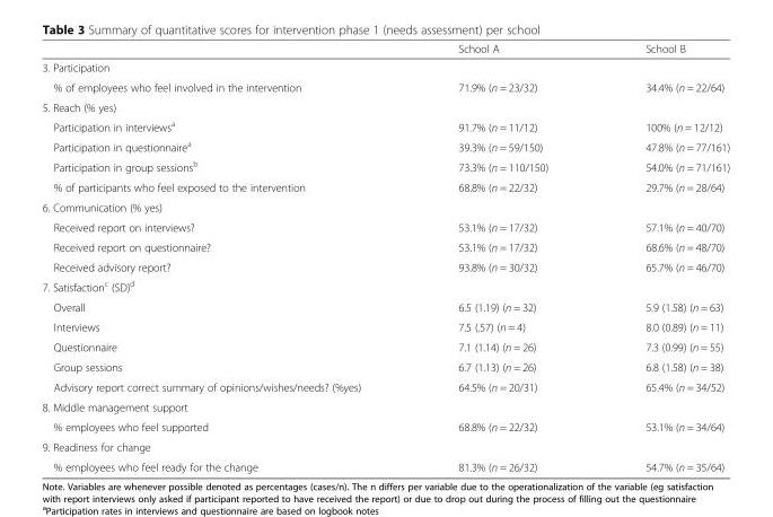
<table><thead><tr><td></td><td>School A</td><td>School B</td></tr></thead><tbody><tr><td colspan="3">3. Participation</td></tr><tr><td>% of employees who feel involved in the intervention</td><td>71.9% (n = 23/32)</td><td>34.4% (n = 22/64)</td></tr><tr><td colspan="3">5. Reach (% yes)</td></tr><tr><td>Participation in interviews<sup>a</sup></td><td>91.7% (n = 11/12)</td><td>100% (n = 12/12)</td></tr><tr><td>Participation in questionnaire<sup>a</sup></td><td>39.3% (n = 59/150)</td><td>47.8% (n = 77/161)</td></tr><tr><td>Participation in group sessions<sup>b</sup></td><td>73.3% (n = 110/150)</td><td>54.0% (n = 71/161)</td></tr><tr><td>% of participants who feel exposed to the intervention</td><td>68.8% (n = 22/32)</td><td>29.7% (n = 28/64)</td></tr><tr><td colspan="3">6. Communication (% yes)</td></tr><tr><td>Received report on interviews?</td><td>53.1% (n = 17/32)</td><td>57.1% (n = 40/70)</td></tr><tr><td>Received report on questionnaire?</td><td>53.1% (n = 17/32)</td><td>68.6% (n = 48/70)</td></tr><tr><td>Received advisory report?</td><td>93.8% (n = 30/32)</td><td>65.7% (n = 46/70)</td></tr><tr><td colspan="3">7. Satisfaction<sup>c</sup> (SD)<sup>d</sup></td></tr><tr><td>Overall</td><td>6.5 (1.19) (n = 32)</td><td>5.9 (1.58) (n = 63)</td></tr><tr><td>Interviews</td><td>7.5 (.57) (n = 4)</td><td>8.0 (0.89) (n = 11)</td></tr><tr><td>Questionnaire</td><td>7.1 (1.14) (n = 26)</td><td>7.3 (0.99) (n = 55)</td></tr><tr><td>Group sessions</td><td>6.7 (1.13) (n = 26)</td><td>6.8 (1.58) (n = 38)</td></tr><tr><td>Advisory report correct summary of opinions/wishes/needs? (%yes)</td><td>64.5% (n = 20/31)</td><td>65.4% (n = 34/52)</td></tr><tr><td colspan="3">8. Middle management support</td></tr><tr><td>% employees who feel supported</td><td>68.8% (n = 22/32)</td><td>53.1% (n = 34/64)</td></tr><tr><td colspan="3">9. Readiness for change</td></tr><tr><td>% employees who feel ready for the change</td><td>81.3% (n = 26/32)</td><td>54.7% (n = 35/64)</td></tr></tbody></table>